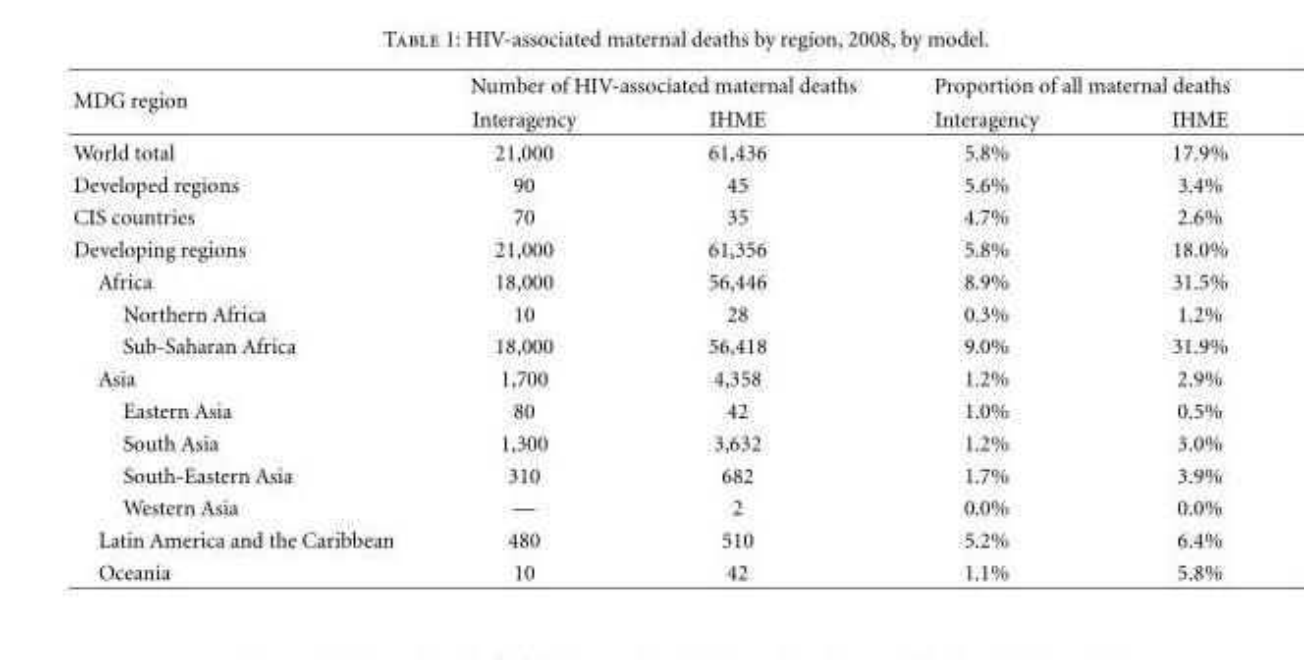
<table><thead><tr><td rowspan="2">MDG region</td><td colspan="2">Number of HIV-associated maternal deaths</td><td colspan="2">Proportion of all maternal deaths</td></tr><tr><td>Interagency</td><td>IHME</td><td>Interagency</td><td>IHME</td></tr></thead><tbody><tr><td>World total</td><td>21,000</td><td>61,436</td><td>5.8%</td><td>17.9%</td></tr><tr><td>Developed regions</td><td>90</td><td>45</td><td>5.6%</td><td>3.4%</td></tr><tr><td>CIS countries</td><td>70</td><td>35</td><td>4.7%</td><td>2.6%</td></tr><tr><td>Developing regions</td><td>21,000</td><td>61,356</td><td>5.8%</td><td>18.0%</td></tr><tr><td>Africa</td><td>18,000</td><td>56,446</td><td>8.9%</td><td>31.5%</td></tr><tr><td>Northern Africa</td><td>10</td><td>28</td><td>0.3%</td><td>1.2%</td></tr><tr><td>Sub-Saharan Africa</td><td>18,000</td><td>56,418</td><td>9.0%</td><td>31.9%</td></tr><tr><td>Asia</td><td>1,700</td><td>4,358</td><td>1.2%</td><td>2.9%</td></tr><tr><td>Eastern Asia</td><td>80</td><td>42</td><td>1.0%</td><td>0.5%</td></tr><tr><td>South Asia</td><td>1,300</td><td>3,632</td><td>1.2%</td><td>3.0%</td></tr><tr><td>South-Eastern Asia</td><td>310</td><td>682</td><td>1.7%</td><td>3.9%</td></tr><tr><td>Western Asia</td><td>—</td><td>2</td><td>0.0%</td><td>0.0%</td></tr><tr><td>Latin America and the Caribbean</td><td>480</td><td>510</td><td>5.2%</td><td>6.4%</td></tr><tr><td>Oceania</td><td>10</td><td>42</td><td>1.1%</td><td>5.8%</td></tr></tbody></table>